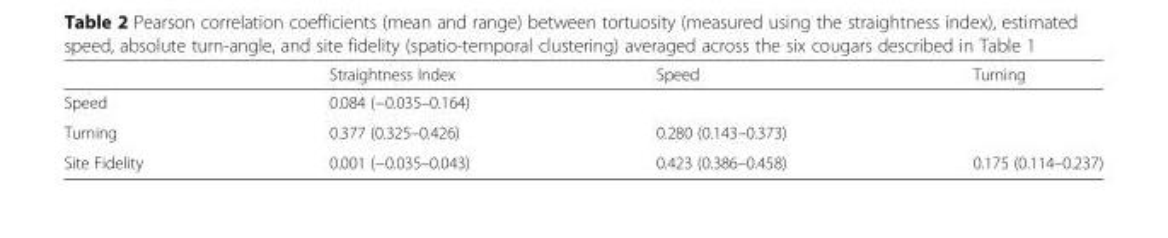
<table><thead><tr><td></td><td>Straightness Index</td><td>Speed</td><td>Turning</td></tr></thead><tbody><tr><td>Speed</td><td>0.084 (−0.035–0.164)</td><td></td><td></td></tr><tr><td>Turning</td><td>0.377 (0.325–0.426)</td><td>0.280 (0.143–0.373)</td><td></td></tr><tr><td>Site Fidelity</td><td>0.001 (−0.035–0.043)</td><td>0.423 (0.386–0.458)</td><td>0.175 (0.114–0.237)</td></tr></tbody></table>